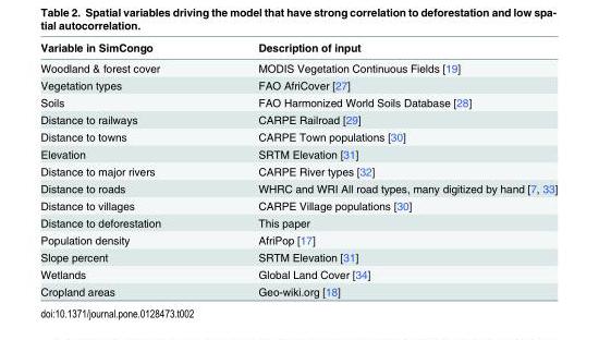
<table><thead><tr><td>Variable in SimCongo</td><td>Description of input</td></tr></thead><tbody><tr><td>Woodland &amp; forest cover</td><td>MODIS Vegetation Continuous Fields [19]</td></tr><tr><td>Vegetation types</td><td>FAO AfriCover [27]</td></tr><tr><td>Soils</td><td>FAO Harmonized World Soils Database [28]</td></tr><tr><td>Distance to railways</td><td>CARPE Railroad [29]</td></tr><tr><td>Distance to towns</td><td>CARPE Town populations [30]</td></tr><tr><td>Elevation</td><td>SRTM Elevation [31]</td></tr><tr><td>Distance to major rivers</td><td>CARPE River types [32]</td></tr><tr><td>Distance to roads</td><td>WHRC and WRI All road types, many digitized by hand [7, 33]</td></tr><tr><td>Distance to villages</td><td>CARPE Village populations [30]</td></tr><tr><td>Distance to deforestation</td><td>This paper</td></tr><tr><td>Population density</td><td>AfriPop [17]</td></tr><tr><td>Slope percent</td><td>SRTM Elevation [31]</td></tr><tr><td>Wetlands</td><td>Global Land Cover [34]</td></tr><tr><td>Cropland areas</td><td>Geo-wiki.org [18]</td></tr></tbody></table>